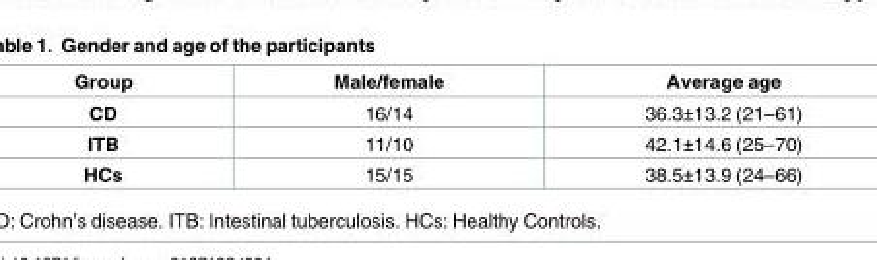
<table><thead><tr><td>Group</td><td>Male/female</td><td>Average age</td></tr></thead><tbody><tr><td>CD</td><td>16/14</td><td>36.3±13.2 (21–61)</td></tr><tr><td>ITB</td><td>11/10</td><td>42.1±14.6 (25–70)</td></tr><tr><td>HCs</td><td>15/15</td><td>38.5±13.9 (24–66)</td></tr></tbody></table>